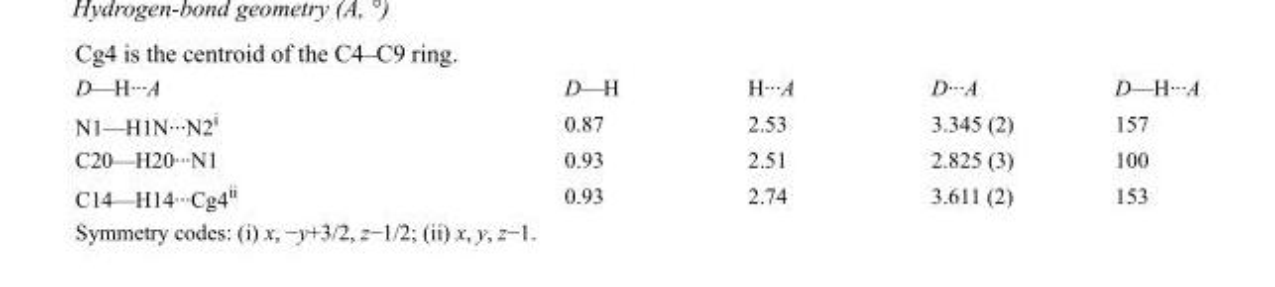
<table><tbody><tr><td>D—H···A</td><td>D—H</td><td>H···A</td><td>D···A</td><td>D—H···A</td></tr><tr><td>N1—H1N···N2<sup>i</sup></td><td>0.87</td><td>2.53</td><td>3.345 (2)</td><td>157</td></tr><tr><td>C20—H20···N1</td><td>0.93</td><td>2.51</td><td>2.825 (3)</td><td>100</td></tr><tr><td>C14—H14···Cg4<sup>ii</sup></td><td>0.93</td><td>2.74</td><td>3.611 (2)</td><td>153</td></tr></tbody></table>